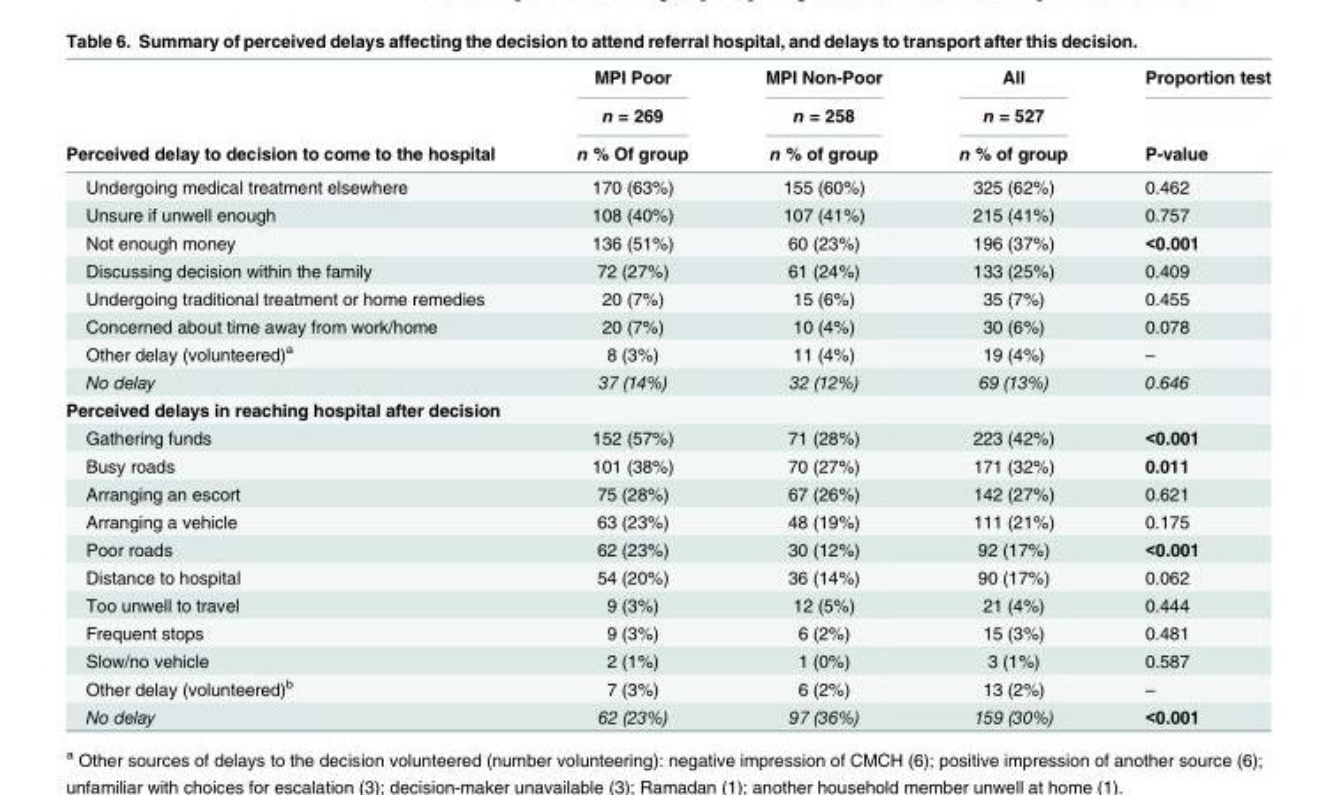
<table><thead><tr><td rowspan="3">Perceived delay to decision to come to the hospital</td><td rowspan="3">MPI Poor n = 269 n % Of group</td><td rowspan="3">MPI Non-Poor n = 258 n % of group</td><td rowspan="3">All n = 527 n % of group</td><td rowspan="3">Proportion test P-value</td></tr><tr></tr><tr></tr></thead><tbody><tr><td>Undergoing medical treatment elsewhere</td><td>170 (63%)</td><td>155 (60%)</td><td>325 (62%)</td><td>0.462</td></tr><tr><td>Unsure if unwell enough</td><td>108 (40%)</td><td>107 (41%)</td><td>215 (41%)</td><td>0.757</td></tr><tr><td>Not enough money</td><td>136 (51%)</td><td>60 (23%)</td><td>196 (37%)</td><td>&lt;0.001</td></tr><tr><td>Discussing decision within the family</td><td>72 (27%)</td><td>61 (24%)</td><td>133 (25%)</td><td>0.409</td></tr><tr><td>Undergoing traditional treatment or home remedies</td><td>20 (7%)</td><td>15 (6%)</td><td>35 (7%)</td><td>0.455</td></tr><tr><td>Concerned about time away from work/home</td><td>20 (7%)</td><td>10 (4%)</td><td>30 (6%)</td><td>0.078</td></tr><tr><td>Other delay (volunteered)<sup>a</sup></td><td>8 (3%)</td><td>11 (4%)</td><td>19 (4%)</td><td>–</td></tr><tr><td>No delay</td><td>37 (14%)</td><td>32 (12%)</td><td>69 (13%)</td><td>0.646</td></tr><tr><td colspan="5">Perceived delays in reaching hospital after decision</td></tr><tr><td>Gathering funds</td><td>152 (57%)</td><td>71 (28%)</td><td>223 (42%)</td><td>&lt;0.001</td></tr><tr><td>Busy roads</td><td>101 (38%)</td><td>70 (27%)</td><td>171 (32%)</td><td>0.011</td></tr><tr><td>Arranging an escort</td><td>75 (28%)</td><td>67 (26%)</td><td>142 (27%)</td><td>0.621</td></tr><tr><td>Arranging a vehicle</td><td>63 (23%)</td><td>48 (19%)</td><td>111 (21%)</td><td>0.175</td></tr><tr><td>Poor roads</td><td>62 (23%)</td><td>30 (12%)</td><td>92 (17%)</td><td>&lt;0.001</td></tr><tr><td>Distance to hospital</td><td>54 (20%)</td><td>36 (14%)</td><td>90 (17%)</td><td>0.062</td></tr><tr><td>Too unwell to travel</td><td>9 (3%)</td><td>12 (5%)</td><td>21 (4%)</td><td>0.444</td></tr><tr><td>Frequent stops</td><td>9 (3%)</td><td>6 (2%)</td><td>15 (3%)</td><td>0.481</td></tr><tr><td>Slow/no vehicle</td><td>2 (1%)</td><td>1 (0%)</td><td>3 (1%)</td><td>0.587</td></tr><tr><td>Other delay (volunteered)<sup>b</sup></td><td>7 (3%)</td><td>6 (2%)</td><td>13 (2%)</td><td>–</td></tr><tr><td>No delay</td><td>62 (23%)</td><td>97 (36%)</td><td>159 (30%)</td><td>&lt;0.001</td></tr></tbody></table>